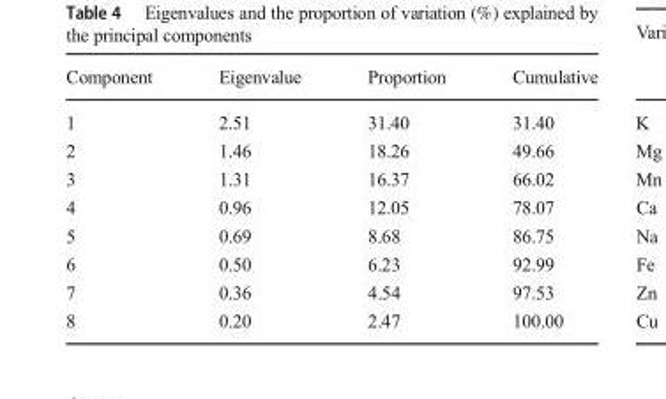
<table><thead><tr><td>Component</td><td>Eigenvalue</td><td>Proportion</td><td>Cumulative</td></tr></thead><tbody><tr><td>1</td><td>2.51</td><td>31.40</td><td>31.40</td></tr><tr><td>2</td><td>1.46</td><td>18.26</td><td>49.66</td></tr><tr><td>3</td><td>1.31</td><td>16.37</td><td>66.02</td></tr><tr><td>4</td><td>0.96</td><td>12.05</td><td>78.07</td></tr><tr><td>5</td><td>0.69</td><td>8.68</td><td>86.75</td></tr><tr><td>6</td><td>0.50</td><td>6.23</td><td>92.99</td></tr><tr><td>7</td><td>0.36</td><td>4.54</td><td>97.53</td></tr><tr><td>8</td><td>0.20</td><td>2.47</td><td>100.00</td></tr></tbody></table>